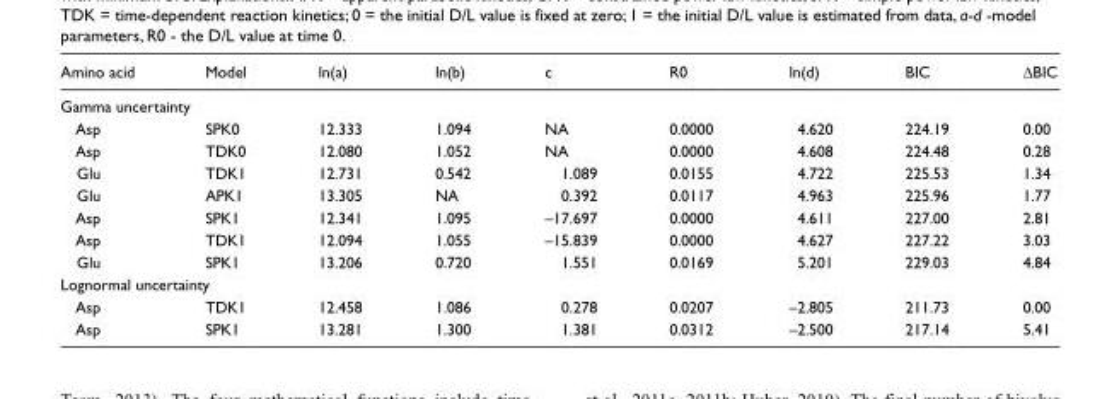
<table><thead><tr><td>Amino acid</td><td>Model</td><td>ln(a)</td><td>ln(b)</td><td>c</td><td>R0</td><td>ln(d)</td><td>BIC</td><td>ΔBIC</td></tr></thead><tbody><tr><td colspan="9">Gamma uncertainty</td></tr><tr><td>Asp</td><td>SPK0</td><td>12.333</td><td>1.094</td><td>NA</td><td>0.0000</td><td>4.620</td><td>224.19</td><td>0.00</td></tr><tr><td>Asp</td><td>TDK0</td><td>12.080</td><td>1.052</td><td>NA</td><td>0.0000</td><td>4.608</td><td>224.48</td><td>0.28</td></tr><tr><td>Glu</td><td>TDK1</td><td>12.731</td><td>0.542</td><td>1.089</td><td>0.0155</td><td>4.722</td><td>225.53</td><td>1.34</td></tr><tr><td>Glu</td><td>APK1</td><td>13.305</td><td>NA</td><td>0.392</td><td>0.0117</td><td>4.963</td><td>225.96</td><td>1.77</td></tr><tr><td>Asp</td><td>SPK1</td><td>12.341</td><td>1.095</td><td>–17.697</td><td>0.0000</td><td>4.611</td><td>227.00</td><td>2.81</td></tr><tr><td>Asp</td><td>TDK1</td><td>12.094</td><td>1.055</td><td>–15.839</td><td>0.0000</td><td>4.627</td><td>227.22</td><td>3.03</td></tr><tr><td>Glu</td><td>SPK1</td><td>13.206</td><td>0.720</td><td>1.551</td><td>0.0169</td><td>5.201</td><td>229.03</td><td>4.84</td></tr><tr><td colspan="9">Lognormal uncertainty</td></tr><tr><td>Asp</td><td>TDK1</td><td>12.458</td><td>1.086</td><td>0.278</td><td>0.0207</td><td>–2.805</td><td>211.73</td><td>0.00</td></tr><tr><td>Asp</td><td>SPK1</td><td>13.281</td><td>1.300</td><td>1.381</td><td>0.0312</td><td>–2.500</td><td>217.14</td><td>5.41</td></tr></tbody></table>